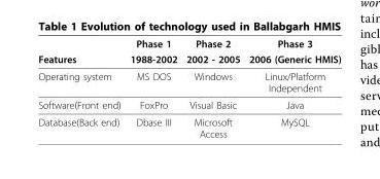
<table><thead><tr><td rowspan="2">Features</td><td rowspan="2">Phase 1 1988-2002</td><td rowspan="2">Phase 2 2002 - 2005</td><td rowspan="2">Phase 3 2006 (Generic HMIS)</td></tr><tr></tr></thead><tbody><tr><td>Operating system</td><td>MS DOS</td><td>Windows</td><td>Linux/Platform Independent</td></tr><tr><td>Software(Front end)</td><td>FoxPro</td><td>Visual Basic</td><td>Java</td></tr><tr><td>Database(Back end)</td><td>Dbase III</td><td>Microsoft Access</td><td>MySQL</td></tr></tbody></table>